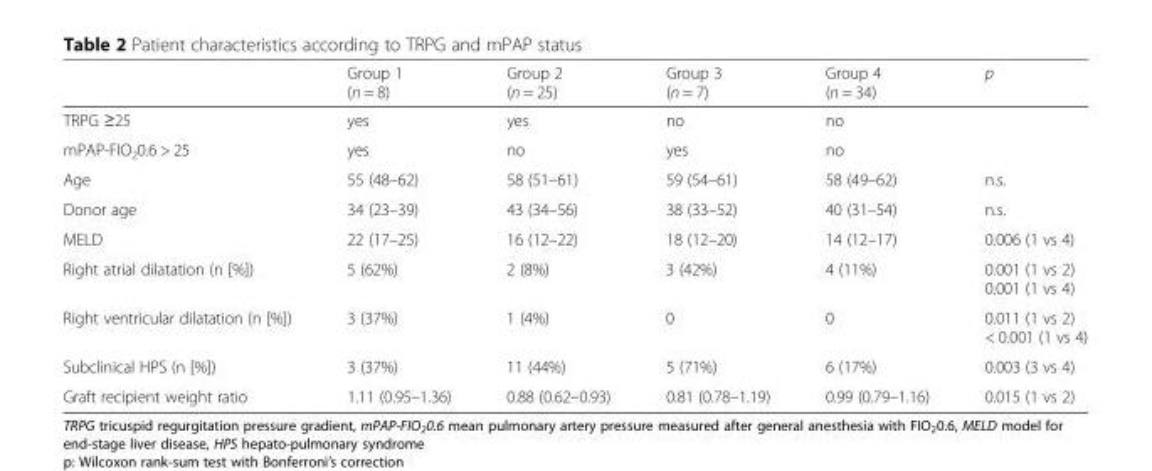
<table><thead><tr><td></td><td>Group 1 (n = 8)</td><td>Group 2 (n = 25)</td><td>Group 3 (n = 7)</td><td>Group 4 (n = 34)</td><td>p</td></tr></thead><tbody><tr><td>TRPG ≥25</td><td>yes</td><td>yes</td><td>no</td><td>no</td><td></td></tr><tr><td>mPAP-FIO<sub>2</sub>0.6 &gt; 25</td><td>yes</td><td>no</td><td>yes</td><td>no</td><td></td></tr><tr><td>Age</td><td>55 (48–62)</td><td>58 (51–61)</td><td>59 (54–61)</td><td>58 (49–62)</td><td>n.s.</td></tr><tr><td>Donor age</td><td>34 (23–39)</td><td>43 (34–56)</td><td>38 (33–52)</td><td>40 (31–54)</td><td>n.s.</td></tr><tr><td>MELD</td><td>22 (17–25)</td><td>16 (12–22)</td><td>18 (12–20)</td><td>14 (12–17)</td><td>0.006 (1 vs 4)</td></tr><tr><td>Right atrial dilatation (n [%])</td><td>5 (62%)</td><td>2 (8%)</td><td>3 (42%)</td><td>4 (11%)</td><td>0.001 (1 vs 2) 0.001 (1 vs 4)</td></tr><tr><td>Right ventricular dilatation (n [%])</td><td>3 (37%)</td><td>1 (4%)</td><td>0</td><td>0</td><td>0.011 (1 vs 2) &lt; 0.001 (1 vs 4)</td></tr><tr><td>Subclinical HPS (n [%])</td><td>3 (37%)</td><td>11 (44%)</td><td>5 (71%)</td><td>6 (17%)</td><td>0.003 (3 vs 4)</td></tr><tr><td>Graft recipient weight ratio</td><td>1.11 (0.95–1.36)</td><td>0.88 (0.62–0.93)</td><td>0.81 (0.78–1.19)</td><td>0.99 (0.79–1.16)</td><td>0.015 (1 vs 2)</td></tr></tbody></table>